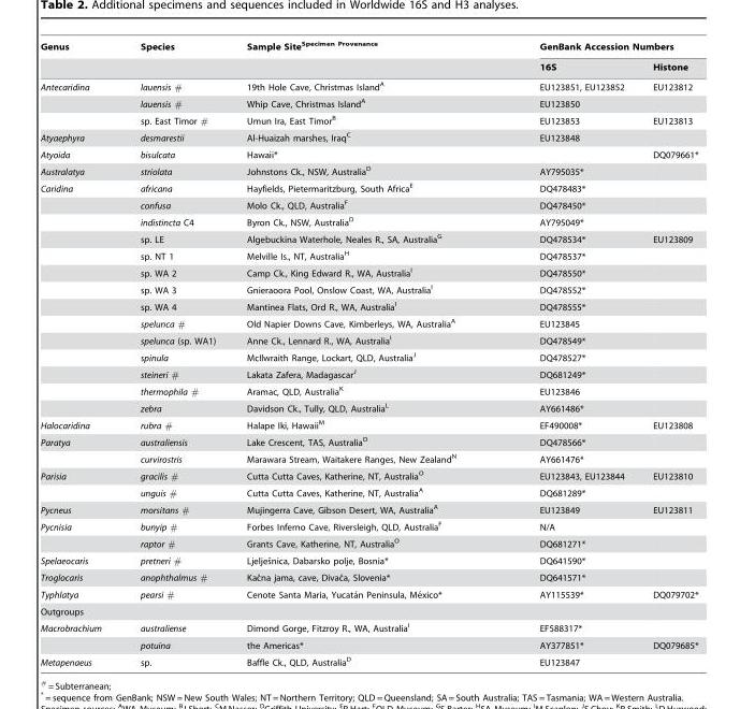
<table><thead><tr><td rowspan="2">Genus</td><td rowspan="2">Species</td><td rowspan="2">Sample Site<sup>Specimen Provenance</sup></td><td colspan="2">GenBank Accession Numbers</td></tr><tr><td>16S</td><td>Histone</td></tr></thead><tbody><tr><td rowspan="3">Antecaridina</td><td>lauensis #</td><td>19th Hole Cave, Christmas Island<sup>A</sup></td><td>EU123851, EU123852</td><td>EU123812</td></tr><tr><td>lauensis #</td><td>Whip Cave, Christmas Island<sup>A</sup></td><td>EU123850</td><td></td></tr><tr><td>sp. East Timor #</td><td>Umun Ira, East Timor<sup>B</sup></td><td>EU123853</td><td>EU123813</td></tr><tr><td>Atyaephyra</td><td>desmarestii</td><td>Al-Huaizah marshes, Iraq<sup>C</sup></td><td>EU123848</td><td></td></tr><tr><td>Atyoida</td><td>bisulcata</td><td>Hawaii*</td><td></td><td>DQ079661*</td></tr><tr><td>Australatya</td><td>striolata</td><td>Johnstons Ck., NSW, Australia<sup>D</sup></td><td>AY795035*</td><td></td></tr><tr><td rowspan="14">Caridina</td><td>africana</td><td>Hayfields, Pietermaritzburg, South Africa<sup>E</sup></td><td>DQ478483*</td><td></td></tr><tr><td>confusa</td><td>Molo Ck., QLD, Australia<sup>F</sup></td><td>DQ478450*</td><td></td></tr><tr><td>indistincta C4</td><td>Byron Ck., NSW, Australia<sup>D</sup></td><td>AY795049*</td><td></td></tr><tr><td>sp. LE</td><td>Algebuckina Waterhole, Neales R., SA, Australia<sup>G</sup></td><td>DQ478534*</td><td>EU123809</td></tr><tr><td>sp. NT 1</td><td>Melville Is., NT, Australia<sup>H</sup></td><td>DQ478537*</td><td></td></tr><tr><td>sp. WA 2</td><td>Camp Ck., King Edward R., WA, Australia<sup>I</sup></td><td>DQ478550*</td><td></td></tr><tr><td>sp. WA 3</td><td>Gnieraoora Pool, Onslow Coast, WA, Australia<sup>I</sup></td><td>DQ478552*</td><td></td></tr><tr><td>sp. WA 4</td><td>Mantinea Flats, Ord R., WA, Australia<sup>I</sup></td><td>DQ478555*</td><td></td></tr><tr><td>spelunca #</td><td>Old Napier Downs Cave, Kimberleys, WA, Australia<sup>A</sup></td><td>EU123845</td><td></td></tr><tr><td>spelunca (sp. WA1)</td><td>Anne Ck., Lennard R., WA, Australia<sup>I</sup></td><td>DQ478549*</td><td></td></tr><tr><td>spinula</td><td>McIlwraith Range, Lockart, QLD, Australia<sup>J</sup></td><td>DQ478527*</td><td></td></tr><tr><td>steineri #</td><td>Lakata Zafera, Madagascar<sup>J</sup></td><td>DQ681249*</td><td></td></tr><tr><td>thermophila #</td><td>Aramac, QLD, Australia<sup>K</sup></td><td>EU123846</td><td></td></tr><tr><td>zebra</td><td>Davidson Ck., Tully, QLD, Australia<sup>L</sup></td><td>AY661486*</td><td></td></tr><tr><td>Halocaridina</td><td>rubra #</td><td>Halape Iki, Hawaii<sup>M</sup></td><td>EF490008*</td><td>EU123808</td></tr><tr><td rowspan="2">Paratya</td><td>australiensis</td><td>Lake Crescent, TAS, Australia<sup>D</sup></td><td>DQ478566*</td><td></td></tr><tr><td>curvirostris</td><td>Marawara Stream, Waitakere Ranges, New Zealand<sup>N</sup></td><td>AY661476*</td><td></td></tr><tr><td rowspan="2">Parisia</td><td>gracilis #</td><td>Cutta Cutta Caves, Katherine, NT, Australia<sup>O</sup></td><td>EU123843, EU123844</td><td>EU123810</td></tr><tr><td>unguis #</td><td>Cutta Cutta Caves, Katherine, NT, Australia<sup>A</sup></td><td>DQ681289*</td><td></td></tr><tr><td>Pycneus</td><td>morsitans #</td><td>Mujingerra Cave, Gibson Desert, WA, Australia<sup>A</sup></td><td>EU123849</td><td>EU123811</td></tr><tr><td rowspan="2">Pycnisia</td><td>bunyip #</td><td>Forbes Inferno Cave, Riversleigh, QLD, Australia<sup>F</sup></td><td>N/A</td><td></td></tr><tr><td>raptor #</td><td>Grants Cave, Katherine, NT, Australia<sup>O</sup></td><td>DQ681271*</td><td></td></tr><tr><td>Spelaeocaris</td><td>pretneri #</td><td>Ljeljesˇnica, Dabarsko polje, Bosnia*</td><td>DQ641590*</td><td></td></tr><tr><td>Troglocaris</td><td>anophthalmus #</td><td>Kacˇna jama, cave, Divacˇa, Slovenia*</td><td>DQ641571*</td><td></td></tr><tr><td>Typhlatya</td><td>pearsi #</td><td>Cenote Santa Maria, Yucata´n Peninsula, Me´xico*</td><td>AY115539*</td><td>DQ079702*</td></tr><tr><td colspan="5">Outgroups</td></tr><tr><td rowspan="2">Macrobrachium</td><td>australiense</td><td>Dimond Gorge, Fitzroy R., WA, Australia<sup>I</sup></td><td>EF588317*</td><td></td></tr><tr><td>potuina</td><td>the Americas*</td><td>AY377851*</td><td>DQ079685*</td></tr><tr><td>Metapenaeus</td><td>sp.</td><td>Baffle Ck., QLD, Australia<sup>D</sup></td><td>EU123847</td><td></td></tr></tbody></table>